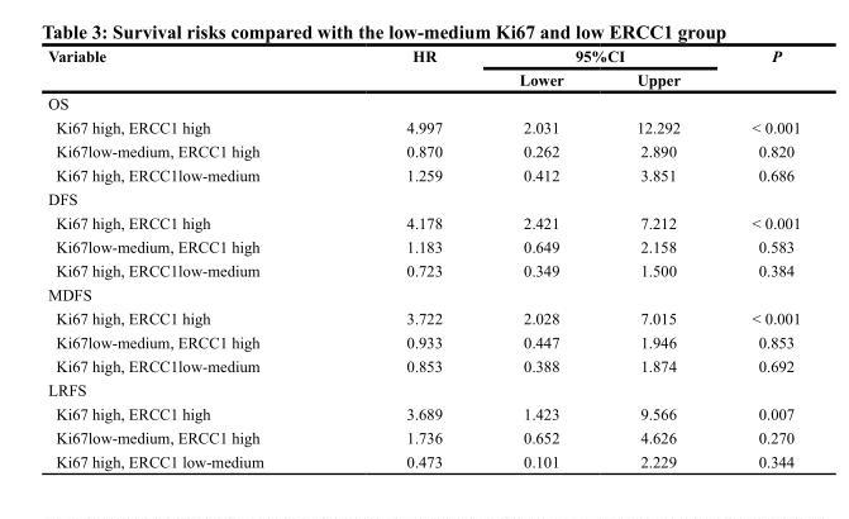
<table><thead><tr><td rowspan="2">Variable</td><td rowspan="2">HR</td><td colspan="2">95%CI</td><td rowspan="2">P</td></tr><tr><td>Lower</td><td>Upper</td></tr></thead><tbody><tr><td colspan="5">OS</td></tr><tr><td>Ki67 high, ERCC1 high</td><td>4.997</td><td>2.031</td><td>12.292</td><td>&lt; 0.001</td></tr><tr><td>Ki67low-medium, ERCC1 high</td><td>0.870</td><td>0.262</td><td>2.890</td><td>0.820</td></tr><tr><td>Ki67 high, ERCC1low-medium</td><td>1.259</td><td>0.412</td><td>3.851</td><td>0.686</td></tr><tr><td colspan="5">DFS</td></tr><tr><td>Ki67 high, ERCC1 high</td><td>4.178</td><td>2.421</td><td>7.212</td><td>&lt; 0.001</td></tr><tr><td>Ki67low-medium, ERCC1 high</td><td>1.183</td><td>0.649</td><td>2.158</td><td>0.583</td></tr><tr><td>Ki67 high, ERCC1low-medium</td><td>0.723</td><td>0.349</td><td>1.500</td><td>0.384</td></tr><tr><td colspan="5">MDFS</td></tr><tr><td>Ki67 high, ERCC1 high</td><td>3.722</td><td>2.028</td><td>7.015</td><td>&lt; 0.001</td></tr><tr><td>Ki67low-medium, ERCC1 high</td><td>0.933</td><td>0.447</td><td>1.946</td><td>0.853</td></tr><tr><td>Ki67 high, ERCC1low-medium</td><td>0.853</td><td>0.388</td><td>1.874</td><td>0.692</td></tr><tr><td colspan="5">LRFS</td></tr><tr><td>Ki67 high, ERCC1 high</td><td>3.689</td><td>1.423</td><td>9.566</td><td>0.007</td></tr><tr><td>Ki67low-medium, ERCC1 high</td><td>1.736</td><td>0.652</td><td>4.626</td><td>0.270</td></tr><tr><td>Ki67 high, ERCC1 low-medium</td><td>0.473</td><td>0.101</td><td>2.229</td><td>0.344</td></tr></tbody></table>